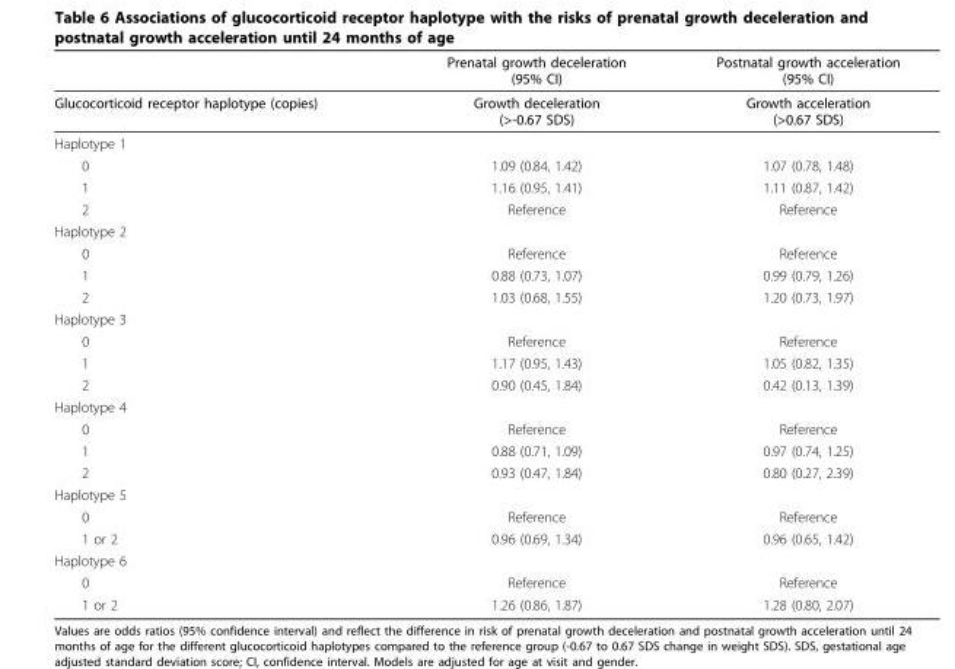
<table><thead><tr><td></td><td>Prenatal growth deceleration (95% CI)</td><td>Postnatal growth acceleration (95% CI)</td></tr></thead><tbody><tr><td>Glucocorticoid receptor haplotype (copies)</td><td>Growth deceleration (&gt;-0.67 SDS)</td><td>Growth acceleration (&gt;0.67 SDS)</td></tr><tr><td colspan="3">Haplotype 1</td></tr><tr><td>0</td><td>1.09 (0.84, 1.42)</td><td>1.07 (0.78, 1.48)</td></tr><tr><td>1</td><td>1.16 (0.95, 1.41)</td><td>1.11 (0.87, 1.42)</td></tr><tr><td>2</td><td>Reference</td><td>Reference</td></tr><tr><td colspan="3">Haplotype 2</td></tr><tr><td>0</td><td>Reference</td><td>Reference</td></tr><tr><td>1</td><td>0.88 (0.73, 1.07)</td><td>0.99 (0.79, 1.26)</td></tr><tr><td>2</td><td>1.03 (0.68, 1.55)</td><td>1.20 (0.73, 1.97)</td></tr><tr><td colspan="3">Haplotype 3</td></tr><tr><td>0</td><td>Reference</td><td>Reference</td></tr><tr><td>1</td><td>1.17 (0.95, 1.43)</td><td>1.05 (0.82, 1.35)</td></tr><tr><td>2</td><td>0.90 (0.45, 1.84)</td><td>0.42 (0.13, 1.39)</td></tr><tr><td colspan="3">Haplotype 4</td></tr><tr><td>0</td><td>Reference</td><td>Reference</td></tr><tr><td>1</td><td>0.88 (0.71, 1.09)</td><td>0.97 (0.74, 1.25)</td></tr><tr><td>2</td><td>0.93 (0.47, 1.84)</td><td>0.80 (0.27, 2.39)</td></tr><tr><td colspan="3">Haplotype 5</td></tr><tr><td>0</td><td>Reference</td><td>Reference</td></tr><tr><td>1 or 2</td><td>0.96 (0.69, 1.34)</td><td>0.96 (0.65, 1.42)</td></tr><tr><td colspan="3">Haplotype 6</td></tr><tr><td>0</td><td>Reference</td><td>Reference</td></tr><tr><td>1 or 2</td><td>1.26 (0.86, 1.87)</td><td>1.28 (0.80, 2.07)</td></tr></tbody></table>